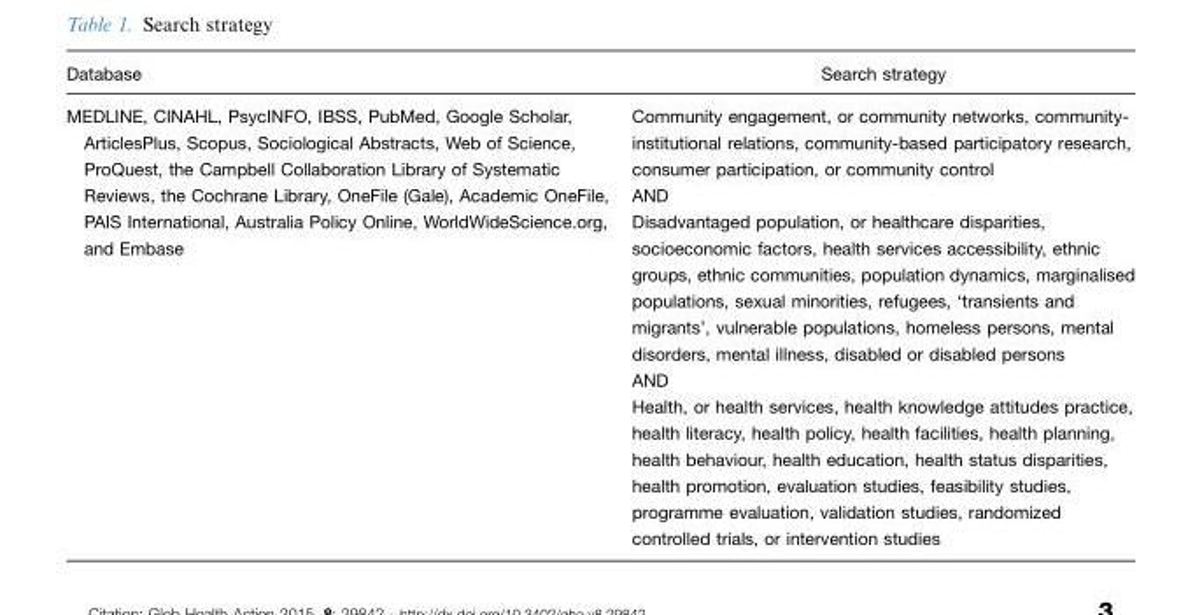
<table><thead><tr><td>Database</td><td>Search strategy</td></tr></thead><tbody><tr><td>MEDLINE, CINAHL, PsycINFO, IBSS, PubMed, Google Scholar, ArticlesPlus, Scopus, Sociological Abstracts, Web of Science, ProQuest, the Campbell Collaboration Library of Systematic Reviews, the Cochrane Library, OneFile (Gale), Academic OneFile, PAIS International, Australia Policy Online, WorldWideScience.org, and Embase</td><td>Community engagement, or community networks, community- institutional relations, community-based participatory research, consumer participation, or community control AND Disadvantaged population, or healthcare disparities, socioeconomic factors, health services accessibility, ethnic groups, ethnic communities, population dynamics, marginalised populations, sexual minorities, refugees, ‘transients and migrants’, vulnerable populations, homeless persons, mental disorders, mental illness, disabled or disabled persons AND Health, or health services, health knowledge attitudes practice, health literacy, health policy, health facilities, health planning, health behaviour, health education, health status disparities, health promotion, evaluation studies, feasibility studies, programme evaluation, validation studies, randomized controlled trials, or intervention studies</td></tr></tbody></table>